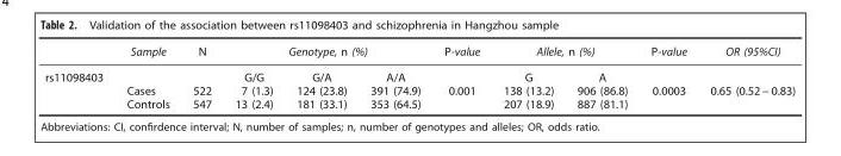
<table><thead><tr><td rowspan="2">rs11098403</td><td rowspan="2">Sample</td><td rowspan="2">N</td><td colspan="3">Genotype, n (%)</td><td rowspan="2">P-value</td><td colspan="2">Allele, n (%)</td><td rowspan="2">P-value</td><td rowspan="2">OR (95%CI)</td></tr><tr><td>G/G</td><td>G/A</td><td>A/A</td><td>G</td><td>A</td></tr></thead><tbody><tr><td></td><td>Cases</td><td>522</td><td>7 (1.3)</td><td>124 (23.8)</td><td>391 (74.9)</td><td>0.001</td><td>138 (13.2)</td><td>906 (86.8)</td><td>0.0003</td><td>0.65 (0.52 − 0.83)</td></tr><tr><td></td><td>Controls</td><td>547</td><td>13 (2.4)</td><td>181 (33.1)</td><td>353 (64.5)</td><td></td><td>207 (18.9)</td><td>887 (81.1)</td><td></td><td></td></tr></tbody></table>